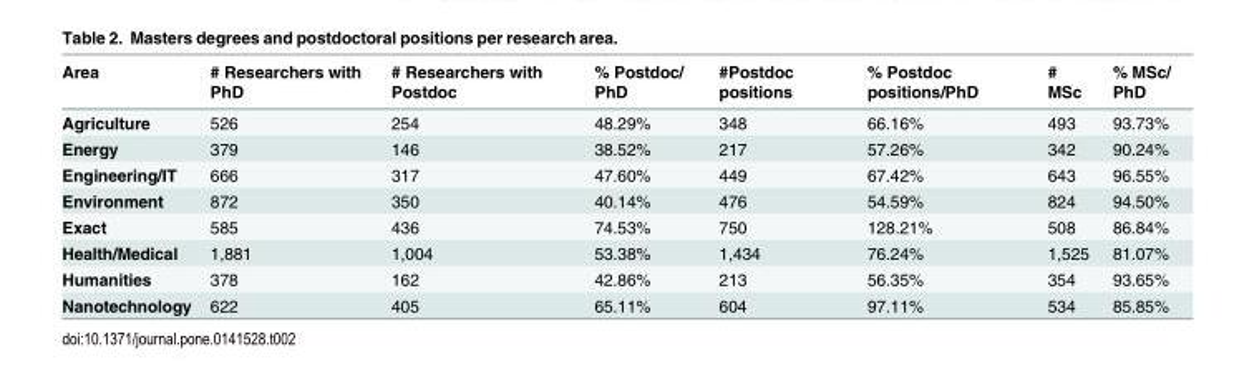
<table><thead><tr><td>Area</td><td># Researchers with PhD</td><td># Researchers with Postdoc</td><td>% Postdoc/ PhD</td><td>#Postdoc positions</td><td>% Postdoc positions/PhD</td><td># MSc</td><td>% MSc/ PhD</td></tr></thead><tbody><tr><td>Agriculture</td><td>526</td><td>254</td><td>48.29%</td><td>348</td><td>66.16%</td><td>493</td><td>93.73%</td></tr><tr><td>Energy</td><td>379</td><td>146</td><td>38.52%</td><td>217</td><td>57.26%</td><td>342</td><td>90.24%</td></tr><tr><td>Engineering/IT</td><td>666</td><td>317</td><td>47.60%</td><td>449</td><td>67.42%</td><td>643</td><td>96.55%</td></tr><tr><td>Environment</td><td>872</td><td>350</td><td>40.14%</td><td>476</td><td>54.59%</td><td>824</td><td>94.50%</td></tr><tr><td>Exact</td><td>585</td><td>436</td><td>74.53%</td><td>750</td><td>128.21%</td><td>508</td><td>86.84%</td></tr><tr><td>Health/Medical</td><td>1,881</td><td>1,004</td><td>53.38%</td><td>1,434</td><td>76.24%</td><td>1,525</td><td>81.07%</td></tr><tr><td>Humanities</td><td>378</td><td>162</td><td>42.86%</td><td>213</td><td>56.35%</td><td>354</td><td>93.65%</td></tr><tr><td>Nanotechnology</td><td>622</td><td>405</td><td>65.11%</td><td>604</td><td>97.11%</td><td>534</td><td>85.85%</td></tr></tbody></table>